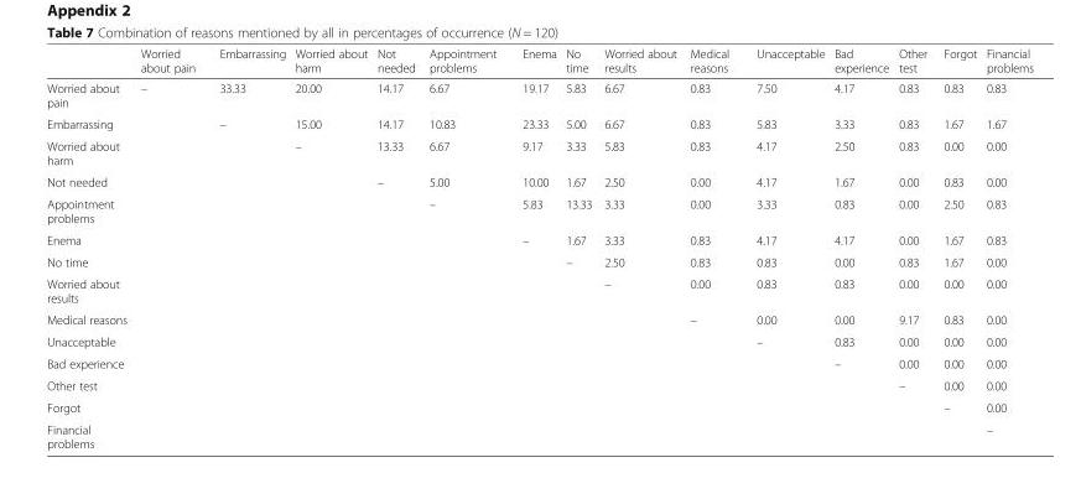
<table><thead><tr><td></td><td>Worried about pain</td><td>Embarrassing</td><td>Worried about harm</td><td>Not needed</td><td>Appointment problems</td><td>Enema</td><td>No time</td><td>Worried about results</td><td>Medical reasons</td><td>Unacceptable</td><td>Bad experience</td><td>Other test</td><td>Forgot</td><td>Financial problems</td></tr></thead><tbody><tr><td>Worried about pain</td><td>–</td><td>33.33</td><td>20.00</td><td>14.17</td><td>6.67</td><td>19.17</td><td>5.83</td><td>6.67</td><td>0.83</td><td>7.50</td><td>4.17</td><td>0.83</td><td>0.83</td><td>0.83</td></tr><tr><td>Embarrassing</td><td></td><td>–</td><td>15.00</td><td>14.17</td><td>10.83</td><td>23.33</td><td>5.00</td><td>6.67</td><td>0.83</td><td>5.83</td><td>3.33</td><td>0.83</td><td>1.67</td><td>1.67</td></tr><tr><td>Worried about harm</td><td></td><td></td><td>–</td><td>13.33</td><td>6.67</td><td>9.17</td><td>3.33</td><td>5.83</td><td>0.83</td><td>4.17</td><td>2.50</td><td>0.83</td><td>0.00</td><td>0.00</td></tr><tr><td>Not needed</td><td></td><td></td><td></td><td>–</td><td>5.00</td><td>10.00</td><td>1.67</td><td>2.50</td><td>0.00</td><td>4.17</td><td>1.67</td><td>0.00</td><td>0.83</td><td>0.00</td></tr><tr><td>Appointment problems</td><td></td><td></td><td></td><td></td><td>–</td><td>5.83</td><td>13.33</td><td>3.33</td><td>0.00</td><td>3.33</td><td>0.83</td><td>0.00</td><td>2.50</td><td>0.83</td></tr><tr><td>Enema</td><td></td><td></td><td></td><td></td><td></td><td>–</td><td>1.67</td><td>3.33</td><td>0.83</td><td>4.17</td><td>4.17</td><td>0.00</td><td>1.67</td><td>0.83</td></tr><tr><td>No time</td><td></td><td></td><td></td><td></td><td></td><td></td><td>–</td><td>2.50</td><td>0.83</td><td>0.83</td><td>0.00</td><td>0.83</td><td>1.67</td><td>0.00</td></tr><tr><td>Worried about results</td><td></td><td></td><td></td><td></td><td></td><td></td><td></td><td>–</td><td>0.00</td><td>0.83</td><td>0.83</td><td>0.00</td><td>0.00</td><td>0.00</td></tr><tr><td>Medical reasons</td><td></td><td></td><td></td><td></td><td></td><td></td><td></td><td></td><td>–</td><td>0.00</td><td>0.00</td><td>9.17</td><td>0.83</td><td>0.00</td></tr><tr><td>Unacceptable</td><td></td><td></td><td></td><td></td><td></td><td></td><td></td><td></td><td></td><td>–</td><td>0.83</td><td>0.00</td><td>0.00</td><td>0.00</td></tr><tr><td>Bad experience</td><td></td><td></td><td></td><td></td><td></td><td></td><td></td><td></td><td></td><td></td><td>–</td><td>0.00</td><td>0.00</td><td>0.00</td></tr><tr><td>Other test</td><td></td><td></td><td></td><td></td><td></td><td></td><td></td><td></td><td></td><td></td><td></td><td>–</td><td>0.00</td><td>0.00</td></tr><tr><td>Forgot</td><td></td><td></td><td></td><td></td><td></td><td></td><td></td><td></td><td></td><td></td><td></td><td></td><td>–</td><td>0.00</td></tr><tr><td>Financial problems</td><td></td><td></td><td></td><td></td><td></td><td></td><td></td><td></td><td></td><td></td><td></td><td></td><td></td><td>–</td></tr></tbody></table>